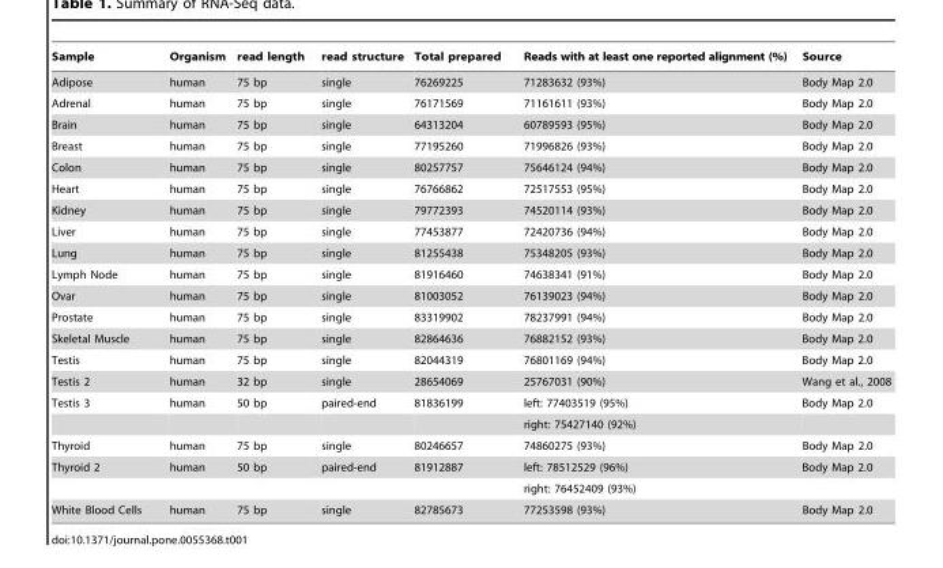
<table><thead><tr><td>Sample</td><td>Organism</td><td>read length</td><td>read structure</td><td>Total prepared</td><td>Reads with at least one reported alignment (%)</td><td>Source</td></tr></thead><tbody><tr><td>Adipose</td><td>human</td><td>75 bp</td><td>single</td><td>76269225</td><td>71283632 (93%)</td><td>Body Map 2.0</td></tr><tr><td>Adrenal</td><td>human</td><td>75 bp</td><td>single</td><td>76171569</td><td>71161611 (93%)</td><td>Body Map 2.0</td></tr><tr><td>Brain</td><td>human</td><td>75 bp</td><td>single</td><td>64313204</td><td>60789593 (95%)</td><td>Body Map 2.0</td></tr><tr><td>Breast</td><td>human</td><td>75 bp</td><td>single</td><td>77195260</td><td>71996826 (93%)</td><td>Body Map 2.0</td></tr><tr><td>Colon</td><td>human</td><td>75 bp</td><td>single</td><td>80257757</td><td>75646124 (94%)</td><td>Body Map 2.0</td></tr><tr><td>Heart</td><td>human</td><td>75 bp</td><td>single</td><td>76766862</td><td>72517553 (95%)</td><td>Body Map 2.0</td></tr><tr><td>Kidney</td><td>human</td><td>75 bp</td><td>single</td><td>79772393</td><td>74520114 (93%)</td><td>Body Map 2.0</td></tr><tr><td>Liver</td><td>human</td><td>75 bp</td><td>single</td><td>77453877</td><td>72420736 (94%)</td><td>Body Map 2.0</td></tr><tr><td>Lung</td><td>human</td><td>75 bp</td><td>single</td><td>81255438</td><td>75348205 (93%)</td><td>Body Map 2.0</td></tr><tr><td>Lymph Node</td><td>human</td><td>75 bp</td><td>single</td><td>81916460</td><td>74638341 (91%)</td><td>Body Map 2.0</td></tr><tr><td>Ovar</td><td>human</td><td>75 bp</td><td>single</td><td>81003052</td><td>76139023 (94%)</td><td>Body Map 2.0</td></tr><tr><td>Prostate</td><td>human</td><td>75 bp</td><td>single</td><td>83319902</td><td>78237991 (94%)</td><td>Body Map 2.0</td></tr><tr><td>Skeletal Muscle</td><td>human</td><td>75 bp</td><td>single</td><td>82864636</td><td>76882152 (93%)</td><td>Body Map 2.0</td></tr><tr><td>Testis</td><td>human</td><td>75 bp</td><td>single</td><td>82044319</td><td>76801169 (94%)</td><td>Body Map 2.0</td></tr><tr><td>Testis 2</td><td>human</td><td>32 bp</td><td>single</td><td>28654069</td><td>25767031 (90%)</td><td>Wang et al., 2008</td></tr><tr><td rowspan="2">Testis 3</td><td>human</td><td>50 bp</td><td>paired-end</td><td>81836199</td><td>left: 77403519 (95%)</td><td>Body Map 2.0</td></tr><tr><td></td><td></td><td></td><td></td><td>right: 75427140 (92%)</td><td></td></tr><tr><td>Thyroid</td><td>human</td><td>75 bp</td><td>single</td><td>80246657</td><td>74860275 (93%)</td><td>Body Map 2.0</td></tr><tr><td rowspan="2">Thyroid 2</td><td>human</td><td>50 bp</td><td>paired-end</td><td>81912887</td><td>left: 78512529 (96%)</td><td>Body Map 2.0</td></tr><tr><td></td><td></td><td></td><td></td><td>right: 76452409 (93%)</td><td></td></tr><tr><td>White Blood Cells</td><td>human</td><td>75 bp</td><td>single</td><td>82785673</td><td>77253598 (93%)</td><td>Body Map 2.0</td></tr></tbody></table>